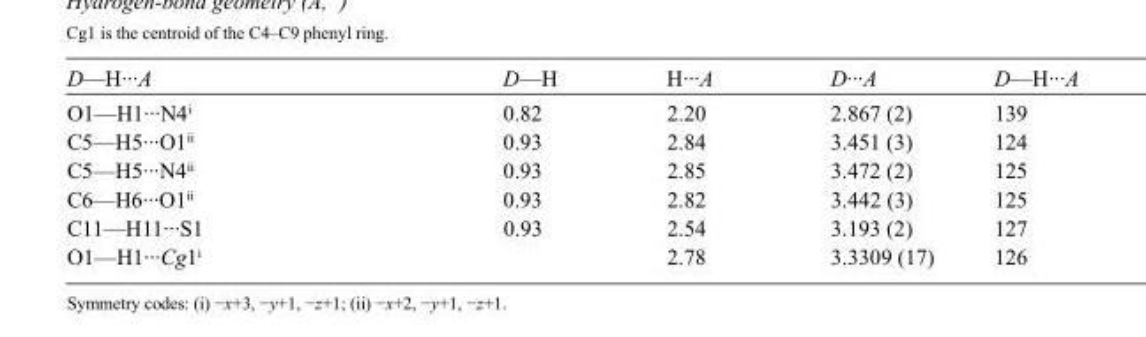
<table><tbody><tr><td>D—H···A</td><td>D—H</td><td>H···A</td><td>D···A</td><td>D—H···A</td></tr><tr><td>O1—H1···N4<sup>i</sup></td><td>0.82</td><td>2.20</td><td>2.867 (2)</td><td>139</td></tr><tr><td>C5—H5···O1<sup>ii</sup></td><td>0.93</td><td>2.84</td><td>3.451 (3)</td><td>124</td></tr><tr><td>C5—H5···N4<sup>ii</sup></td><td>0.93</td><td>2.85</td><td>3.472 (2)</td><td>125</td></tr><tr><td>C6—H6···O1<sup>ii</sup></td><td>0.93</td><td>2.82</td><td>3.442 (3)</td><td>125</td></tr><tr><td>C11—H11···S1</td><td>0.93</td><td>2.54</td><td>3.193 (2)</td><td>127</td></tr><tr><td>O1—H1···Cg1<sup>i</sup></td><td></td><td>2.78</td><td>3.3309 (17)</td><td>126</td></tr></tbody></table>